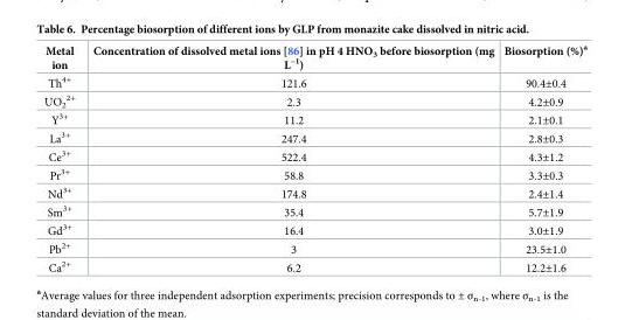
<table><thead><tr><td>Metal ion</td><td>Concentration of dissolved metal ions [86] in pH 4 HNO<sub>3</sub> before biosorption (mg L<sup>–1</sup>)</td><td>Biosorption (%)<sup>a</sup></td></tr></thead><tbody><tr><td>Th<sup>4+</sup></td><td>121.6</td><td>90.4±0.4</td></tr><tr><td>UO<sub>2</sub> <sup>2+</sup></td><td>2.3</td><td>4.2±0.9</td></tr><tr><td>Y<sup>3+</sup></td><td>11.2</td><td>2.1±0.1</td></tr><tr><td>La<sup>3+</sup></td><td>247.4</td><td>2.8±0.3</td></tr><tr><td>Ce<sup>3+</sup></td><td>522.4</td><td>4.3±1.2</td></tr><tr><td>Pr<sup>3+</sup></td><td>58.8</td><td>3.3±0.3</td></tr><tr><td>Nd<sup>3+</sup></td><td>174.8</td><td>2.4±1.4</td></tr><tr><td>Sm<sup>3+</sup></td><td>35.4</td><td>5.7±1.9</td></tr><tr><td>Gd<sup>3+</sup></td><td>16.4</td><td>3.0±1.9</td></tr><tr><td>Pb<sup>2+</sup></td><td>3</td><td>23.5±1.0</td></tr><tr><td>Ca<sup>2+</sup></td><td>6.2</td><td>12.2±1.6</td></tr></tbody></table>